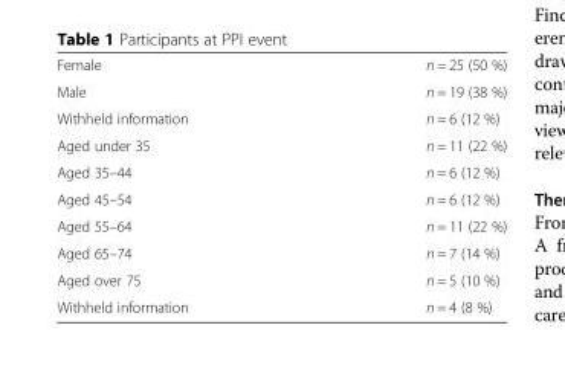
<table><tbody><tr><td>Female</td><td>n = 25 (50 %)</td></tr><tr><td>Male</td><td>n = 19 (38 %)</td></tr><tr><td>Withheld information</td><td>n = 6 (12 %)</td></tr><tr><td>Aged under 35</td><td>n = 11 (22 %)</td></tr><tr><td>Aged 35–44</td><td>n = 6 (12 %)</td></tr><tr><td>Aged 45–54</td><td>n = 6 (12 %)</td></tr><tr><td>Aged 55–64</td><td>n = 11 (22 %)</td></tr><tr><td>Aged 65–74</td><td>n = 7 (14 %)</td></tr><tr><td>Aged over 75</td><td>n = 5 (10 %)</td></tr><tr><td>Withheld information</td><td>n = 4 (8 %)</td></tr></tbody></table>